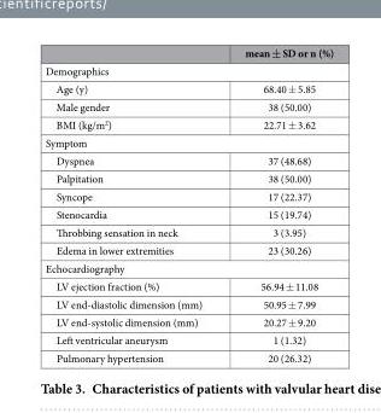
<table><thead><tr><td></td><td>mean ± SD or n (%)</td></tr></thead><tbody><tr><td colspan="2">Demographics</td></tr><tr><td>Age (y)</td><td>68.40 ± 5.85</td></tr><tr><td>Male gender</td><td>38 (50.00)</td></tr><tr><td>BMI (kg/m<sup>2</sup>)</td><td>22.71 ± 3.62</td></tr><tr><td colspan="2">Symptom</td></tr><tr><td>Dyspnea</td><td>37 (48.68)</td></tr><tr><td>Palpitation</td><td>38 (50.00)</td></tr><tr><td>Syncope</td><td>17 (22.37)</td></tr><tr><td>Stenocardia</td><td>15 (19.74)</td></tr><tr><td>Throbbing sensation in neck</td><td>3 (3.95)</td></tr><tr><td>Edema in lower extremities</td><td>23 (30.26)</td></tr><tr><td colspan="2">Echocardiography</td></tr><tr><td>LV ejection fraction (%)</td><td>56.94 ± 11.08</td></tr><tr><td>LV end-diastolic dimension (mm)</td><td>50.95 ± 7.99</td></tr><tr><td>LV end-systolic dimension (mm)</td><td>20.27 ± 9.20</td></tr><tr><td>Left ventricular aneurysm</td><td>1 (1.32)</td></tr><tr><td>Pulmonary hypertension</td><td>20 (26.32)</td></tr></tbody></table>